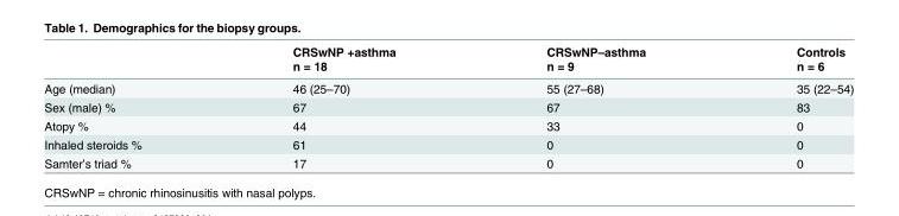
<table><thead><tr><td></td><td>CRSwNP +asthma n = 18</td><td>CRSwNP–asthma n = 9</td><td>Controls n = 6</td></tr></thead><tbody><tr><td>Age (median)</td><td>46 (25–70)</td><td>55 (27–68)</td><td>35 (22–54)</td></tr><tr><td>Sex (male) %</td><td>67</td><td>67</td><td>83</td></tr><tr><td>Atopy %</td><td>44</td><td>33</td><td>0</td></tr><tr><td>Inhaled steroids %</td><td>61</td><td>0</td><td>0</td></tr><tr><td>Samter’s triad %</td><td>17</td><td>0</td><td>0</td></tr></tbody></table>